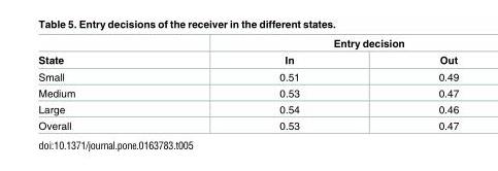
<table><thead><tr><td rowspan="2">State</td><td colspan="2">Entry decision</td></tr><tr><td>In</td><td>Out</td></tr></thead><tbody><tr><td>Small</td><td>0.51</td><td>0.49</td></tr><tr><td>Medium</td><td>0.53</td><td>0.47</td></tr><tr><td>Large</td><td>0.54</td><td>0.46</td></tr><tr><td>Overall</td><td>0.53</td><td>0.47</td></tr></tbody></table>